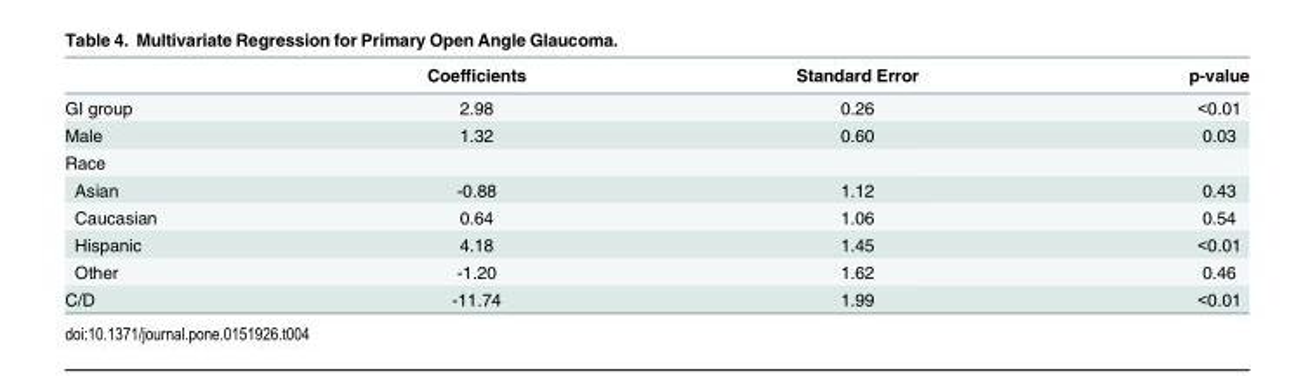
<table><thead><tr><td></td><td>Coefficients</td><td>Standard Error</td><td>p-value</td></tr></thead><tbody><tr><td>GI group</td><td>2.98</td><td>0.26</td><td>&lt;0.01</td></tr><tr><td>Male</td><td>1.32</td><td>0.60</td><td>0.03</td></tr><tr><td colspan="4">Race</td></tr><tr><td>Asian</td><td>-0.88</td><td>1.12</td><td>0.43</td></tr><tr><td>Caucasian</td><td>0.64</td><td>1.06</td><td>0.54</td></tr><tr><td>Hispanic</td><td>4.18</td><td>1.45</td><td>&lt;0.01</td></tr><tr><td>Other</td><td>-1.20</td><td>1.62</td><td>0.46</td></tr><tr><td>C/D</td><td>-11.74</td><td>1.99</td><td>&lt;0.01</td></tr></tbody></table>